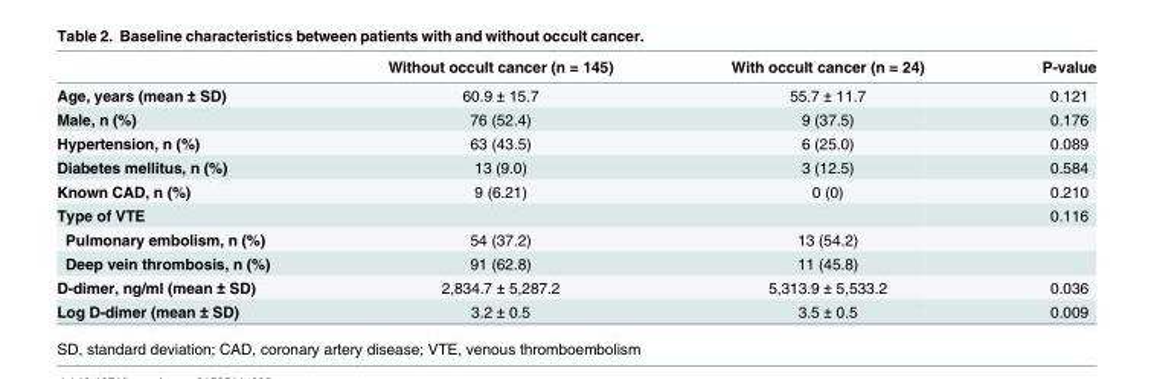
<table><thead><tr><td></td><td>Without occult cancer (n = 145)</td><td>With occult cancer (n = 24)</td><td>P-value</td></tr></thead><tbody><tr><td>Age, years (mean ± SD)</td><td>60.9 ± 15.7</td><td>55.7 ± 11.7</td><td>0.121</td></tr><tr><td>Male, n (%)</td><td>76 (52.4)</td><td>9 (37.5)</td><td>0.176</td></tr><tr><td>Hypertension, n (%)</td><td>63 (43.5)</td><td>6 (25.0)</td><td>0.089</td></tr><tr><td>Diabetes mellitus, n (%)</td><td>13 (9.0)</td><td>3 (12.5)</td><td>0.584</td></tr><tr><td>Known CAD, n (%)</td><td>9 (6.21)</td><td>0 (0)</td><td>0.210</td></tr><tr><td>Type of VTE</td><td></td><td></td><td>0.116</td></tr><tr><td>Pulmonary embolism, n (%)</td><td>54 (37.2)</td><td>13 (54.2)</td><td></td></tr><tr><td>Deep vein thrombosis, n (%)</td><td>91 (62.8)</td><td>11 (45.8)</td><td></td></tr><tr><td>D-dimer, ng/ml (mean ± SD)</td><td>2,834.7 ± 5,287.2</td><td>5,313.9 ± 5,533.2</td><td>0.036</td></tr><tr><td>Log D-dimer (mean ± SD)</td><td>3.2 ± 0.5</td><td>3.5 ± 0.5</td><td>0.009</td></tr></tbody></table>